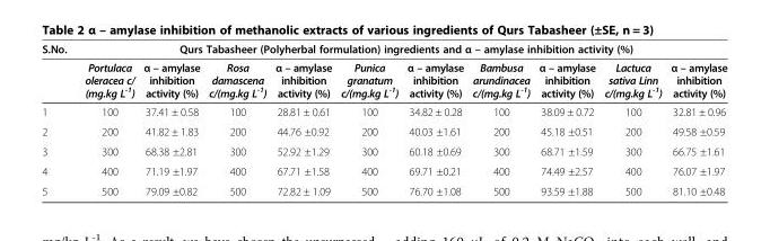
<table><thead><tr><td rowspan="2">S.No.</td><td colspan="10">Qurs Tabasheer (Polyherbal formulation) ingredients and α – amylase inhibition activity (%)</td></tr><tr><td>Portulaca oleracea c/ (mg.kg L-1)</td><td>α – amylase inhibition activity (%)</td><td>Rosa damascena c/(mg.kg L-1)</td><td>α – amylase inhibition activity (%)</td><td>Punica granatum c/(mg.kg L-1)</td><td>α – amylase inhibition activity (%)</td><td>Bambusa arundinacea c/(mg.kg L-1)</td><td>α – amylase inhibition activity (%)</td><td>Lactuca sativa Linn c/(mg.kg L-1)</td><td>α – amylase inhibition activity (%)</td></tr></thead><tbody><tr><td>1</td><td>100</td><td>37.41 ± 0.58</td><td>100</td><td>28.81 ± 0.61</td><td>100</td><td>34.82 ± 0.28</td><td>100</td><td>38.09 ± 0.72</td><td>100</td><td>32.81 ± 0.96</td></tr><tr><td>2</td><td>200</td><td>41.82 ± 1.83</td><td>200</td><td>44.76 ±0.92</td><td>200</td><td>40.03 ±1.61</td><td>200</td><td>45.18 ±0.51</td><td>200</td><td>49.58 ±0.59</td></tr><tr><td>3</td><td>300</td><td>68.38 ±2.81</td><td>300</td><td>52.92 ±1.29</td><td>300</td><td>60.18 ±0.69</td><td>300</td><td>68.71 ±1.59</td><td>300</td><td>66.75 ±1.61</td></tr><tr><td>4</td><td>400</td><td>71.19 ±1.97</td><td>400</td><td>67.71 ±1.58</td><td>400</td><td>69.71 ±0.21</td><td>400</td><td>74.49 ±2.57</td><td>400</td><td>76.07 ±1.97</td></tr><tr><td>5</td><td>500</td><td>79.09 ±0.82</td><td>500</td><td>72.82 ± 1.09</td><td>500</td><td>76.70 ±1.08</td><td>500</td><td>93.59 ±1.88</td><td>500</td><td>81.10 ±0.48</td></tr></tbody></table>